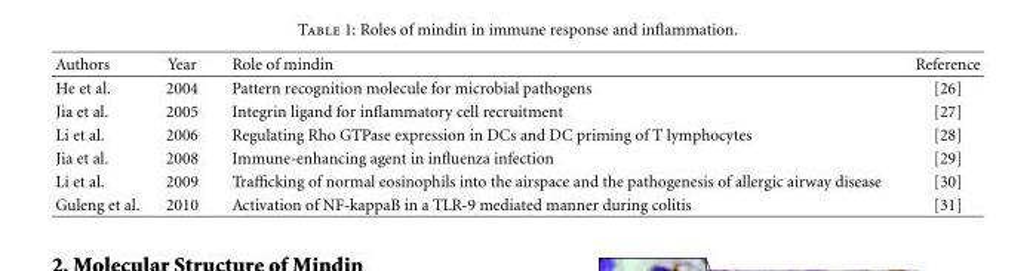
<table><thead><tr><td>Authors</td><td>Year</td><td>Role of mindin</td><td>Reference</td></tr></thead><tbody><tr><td>He et al.</td><td>2004</td><td>Pattern recognition molecule for microbial pathogens</td><td>[26]</td></tr><tr><td>Jia et al.</td><td>2005</td><td>Integrin ligand for inflammatory cell recruitment</td><td>[27]</td></tr><tr><td>Li et al.</td><td>2006</td><td>Regulating Rho GTPase expression in DCs and DC priming of T lymphocytes</td><td>[28]</td></tr><tr><td>Jia et al.</td><td>2008</td><td>Immune-enhancing agent in influenza infection</td><td>[29]</td></tr><tr><td>Li et al.</td><td>2009</td><td>Trafficking of normal eosinophils into the airspace and the pathogenesis of allergic airway disease</td><td>[30]</td></tr><tr><td>Guleng et al.</td><td>2010</td><td>Activation of NF-kappaB in a TLR-9 mediated manner during colitis</td><td>[31]</td></tr></tbody></table>